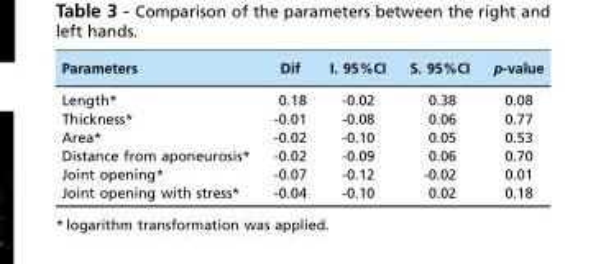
<table><thead><tr><td>Parameters</td><td>Dif</td><td>I. 95%CI</td><td>S. 95%CI</td><td>p-value</td></tr></thead><tbody><tr><td>Length*</td><td>0.18</td><td>-0.02</td><td>0.38</td><td>0.08</td></tr><tr><td>Thickness*</td><td>-0.01</td><td>-0.08</td><td>0.06</td><td>0.77</td></tr><tr><td>Area*</td><td>-0.02</td><td>-0.10</td><td>0.05</td><td>0.53</td></tr><tr><td>Distance from aponeurosis*</td><td>-0.02</td><td>-0.09</td><td>0.06</td><td>0.70</td></tr><tr><td>Joint opening*</td><td>-0.07</td><td>-0.12</td><td>-0.02</td><td>0.01</td></tr><tr><td>Joint opening with stress*</td><td>-0.04</td><td>-0.10</td><td>0.02</td><td>0.18</td></tr></tbody></table>